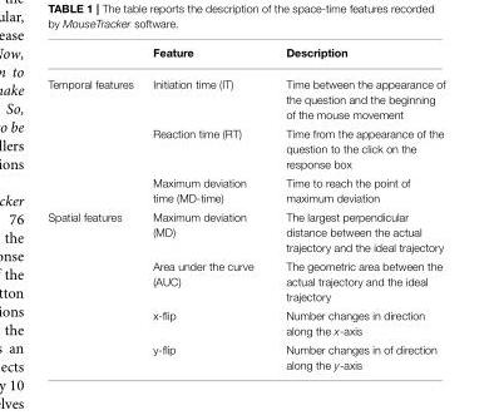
<table><thead><tr><td></td><td>Feature</td><td>Description</td></tr></thead><tbody><tr><td rowspan="3">Temporal features</td><td>Initiation time (IT)</td><td>Time between the appearance of the question and the beginning of the mouse movement</td></tr><tr><td>Reaction time (RT)</td><td>Time from the appearance of the question to the click on the response box</td></tr><tr><td>Maximum deviation time (MD-time)</td><td>Time to reach the point of maximum deviation</td></tr><tr><td rowspan="4">Spatial features</td><td>Maximum deviation (MD)</td><td>The largest perpendicular distance between the actual trajectory and the ideal trajectory</td></tr><tr><td>Area under the curve (AUC)</td><td>The geometric area between the actual trajectory and the ideal trajectory</td></tr><tr><td>x-flip</td><td>Number changes in direction along the x-axis</td></tr><tr><td>y-flip</td><td>Number changes in of direction along the y-axis</td></tr></tbody></table>